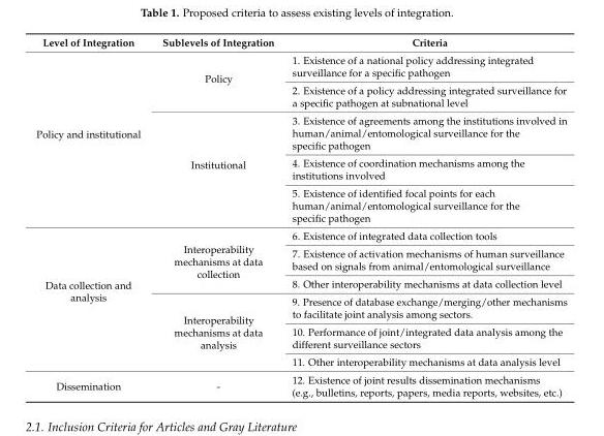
<table><thead><tr><td>Level of Integration</td><td>Sublevels of Integration</td><td>Criteria</td></tr></thead><tbody><tr><td rowspan="5">Policy and institutional</td><td rowspan="2">Policy</td><td>1. Existence of a national policy addressing integrated surveillance for a specific pathogen</td></tr><tr><td>2. Existence of a policy addressing integrated surveillance for a specific pathogen at subnational level</td></tr><tr><td rowspan="3">Institutional</td><td>3. Existence of agreements among the institutions involved in human/animal/entomological surveillance for the specific pathogen</td></tr><tr><td>4. Existence of coordination mechanisms among the institutions involved</td></tr><tr><td>5. Existence of identified focal points for each human/animal/entomological surveillance for the specific pathogen</td></tr><tr><td rowspan="6">Data collection and analysis</td><td rowspan="3">Interoperability mechanisms at data collection</td><td>6. Existence of integrated data collection tools</td></tr><tr><td>7. Existence of activation mechanisms of human surveillance based on signals from animal/entomological surveillance</td></tr><tr><td>8. Other interoperability mechanisms at data collection level</td></tr><tr><td rowspan="3">Interoperability mechanisms at data analysis</td><td>9. Presence of database exchange/merging/other mechanisms to facilitate joint analysis among sectors.</td></tr><tr><td>10. Performance of joint/integrated data analysis among the different surveillance sectors</td></tr><tr><td>11. Other interoperability mechanisms at data analysis level</td></tr><tr><td>Dissemination</td><td>-</td><td>12. Existence of joint results dissemination mechanisms (e.g., bulletins, reports, papers, media reports, websites, etc.)</td></tr></tbody></table>